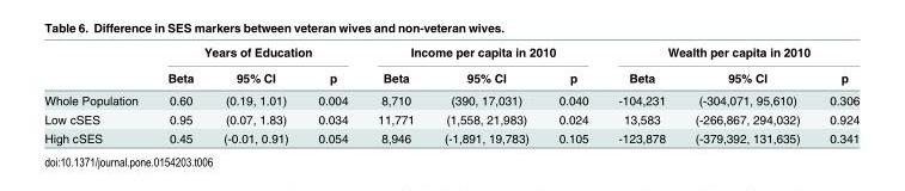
<table><thead><tr><td rowspan="2"></td><td colspan="3">Years of Education</td><td colspan="3">Income per capita in 2010</td><td colspan="3">Wealth per capita in 2010</td></tr><tr><td>Beta</td><td>95% CI</td><td>p</td><td>Beta</td><td>95% CI</td><td>p</td><td>Beta</td><td>95% CI</td><td>p</td></tr></thead><tbody><tr><td>Whole Population</td><td>0.60</td><td>(0.19, 1.01)</td><td>0.004</td><td>8,710</td><td>(390, 17,031)</td><td>0.040</td><td>-104,231</td><td>(-304,071, 95,610)</td><td>0.306</td></tr><tr><td>Low cSES</td><td>0.95</td><td>(0.07, 1.83)</td><td>0.034</td><td>11,771</td><td>(1,558, 21,983)</td><td>0.024</td><td>13,583</td><td>(-266,867, 294,032)</td><td>0.924</td></tr><tr><td>High cSES</td><td>0.45</td><td>(-0.01, 0.91)</td><td>0.054</td><td>8,946</td><td>(-1,891, 19,783)</td><td>0.105</td><td>-123,878</td><td>(-379,392, 131,635)</td><td>0.341</td></tr></tbody></table>